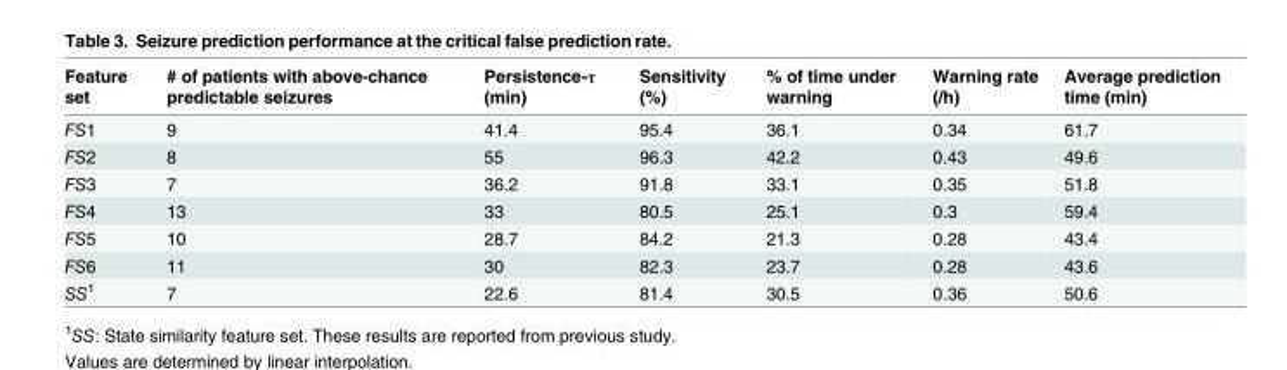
<table><thead><tr><td>Feature set</td><td># of patients with above-chance predictable seizures</td><td>Persistence-τ (min)</td><td>Sensitivity (%)</td><td>% of time under warning</td><td>Warning rate (/h)</td><td>Average prediction time (min)</td></tr></thead><tbody><tr><td>FS1</td><td>9</td><td>41.4</td><td>95.4</td><td>36.1</td><td>0.34</td><td>61.7</td></tr><tr><td>FS2</td><td>8</td><td>55</td><td>96.3</td><td>42.2</td><td>0.43</td><td>49.6</td></tr><tr><td>FS3</td><td>7</td><td>36.2</td><td>91.8</td><td>33.1</td><td>0.35</td><td>51.8</td></tr><tr><td>FS4</td><td>13</td><td>33</td><td>80.5</td><td>25.1</td><td>0.3</td><td>59.4</td></tr><tr><td>FS5</td><td>10</td><td>28.7</td><td>84.2</td><td>21.3</td><td>0.28</td><td>43.4</td></tr><tr><td>FS6</td><td>11</td><td>30</td><td>82.3</td><td>23.7</td><td>0.28</td><td>43.6</td></tr><tr><td>SS<sup>1</sup></td><td>7</td><td>22.6</td><td>81.4</td><td>30.5</td><td>0.36</td><td>50.6</td></tr></tbody></table>